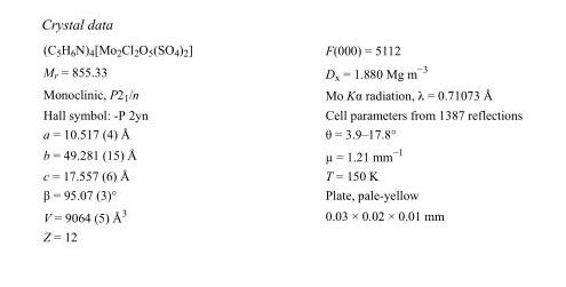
<table><tbody><tr><td>(C<sub>5</sub>H<sub>6</sub>N)<sub>4</sub>[Mo<sub>2</sub>Cl<sub>2</sub>O<sub>5</sub>(SO<sub>4</sub>)<sub>2</sub>]</td><td>F(000) = 5112</td></tr><tr><td>M<sub>r</sub> = 855.33</td><td>D<sub>x</sub> = 1.880 Mg m<sup>−3</sup></td></tr><tr><td>Monoclinic, P2<sub>1</sub>/n</td><td>Mo Kα radiation, λ = 0.71073 Å</td></tr><tr><td>Hall symbol: -P 2yn</td><td>Cell parameters from 1387 reflections</td></tr><tr><td>a = 10.517 (4) Å</td><td>θ = 3.9–17.8°</td></tr><tr><td>b = 49.281 (15) Å</td><td>µ = 1.21 mm<sup>−1</sup></td></tr><tr><td>c = 17.557 (6) Å</td><td>T = 150 K</td></tr><tr><td>β = 95.07 (3)°</td><td>Plate, pale-yellow</td></tr><tr><td>V = 9064 (5) Å<sup>3</sup></td><td>0.03 × 0.02 × 0.01 mm</td></tr><tr><td>Z = 12</td><td></td></tr></tbody></table>